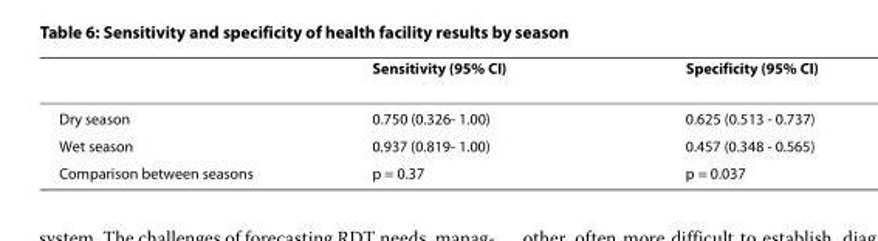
<table><thead><tr><td></td><td>Sensitivity (95% CI)</td><td>Specificity (95% CI)</td></tr></thead><tbody><tr><td>Dry season</td><td>0.750 (0.326- 1.00)</td><td>0.625 (0.513 - 0.737)</td></tr><tr><td>Wet season</td><td>0.937 (0.819- 1.00)</td><td>0.457 (0.348 - 0.565)</td></tr><tr><td>Comparison between seasons</td><td>p = 0.37</td><td>p = 0.037</td></tr></tbody></table>